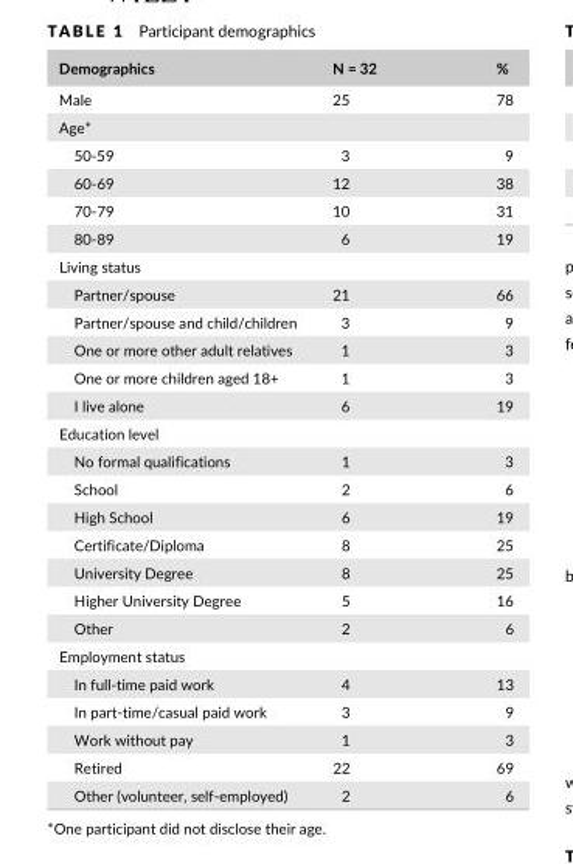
<table><thead><tr><td>Demographics</td><td>N = 32</td><td>%</td></tr></thead><tbody><tr><td>Male</td><td>25</td><td>78</td></tr><tr><td colspan="3">Age*</td></tr><tr><td>50- 59</td><td>3</td><td>9</td></tr><tr><td>60- 69</td><td>12</td><td>38</td></tr><tr><td>70- 79</td><td>10</td><td>31</td></tr><tr><td>80- 89</td><td>6</td><td>19</td></tr><tr><td colspan="3">Living status</td></tr><tr><td>Partner/spouse</td><td>21</td><td>66</td></tr><tr><td>Partner/spouse and child/children</td><td>3</td><td>9</td></tr><tr><td>One or more other adult relatives</td><td>1</td><td>3</td></tr><tr><td>One or more children aged 18+</td><td>1</td><td>3</td></tr><tr><td>I live alone</td><td>6</td><td>19</td></tr><tr><td colspan="3">Education level</td></tr><tr><td>No formal qualifications</td><td>1</td><td>3</td></tr><tr><td>School</td><td>2</td><td>6</td></tr><tr><td>High School</td><td>6</td><td>19</td></tr><tr><td>Certificate/Diploma</td><td>8</td><td>25</td></tr><tr><td>University Degree</td><td>8</td><td>25</td></tr><tr><td>Higher University Degree</td><td>5</td><td>16</td></tr><tr><td>Other</td><td>2</td><td>6</td></tr><tr><td colspan="3">Employment status</td></tr><tr><td>In full- time paid work</td><td>4</td><td>13</td></tr><tr><td>In part- time/casual paid work</td><td>3</td><td>9</td></tr><tr><td>Work without pay</td><td>1</td><td>3</td></tr><tr><td>Retired</td><td>22</td><td>69</td></tr><tr><td>Other (volunteer, self- employed)</td><td>2</td><td>6</td></tr></tbody></table>